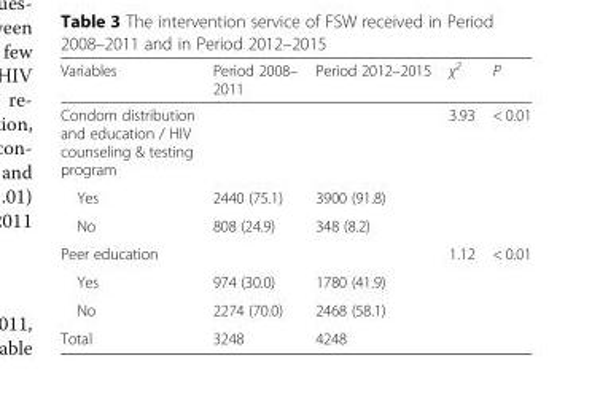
<table><thead><tr><td>Variables</td><td>Period 2008– 2011</td><td>Period 2012–2015</td><td>χ<sup>2</sup></td><td>P</td></tr></thead><tbody><tr><td>Condom distribution and education / HIV counseling &amp; testing program</td><td></td><td></td><td>3.93</td><td>&lt; 0.01</td></tr><tr><td>Yes</td><td>2440 (75.1)</td><td>3900 (91.8)</td><td rowspan="2"></td><td rowspan="2"></td></tr><tr><td>No</td><td>808 (24.9)</td><td>348 (8.2)</td></tr><tr><td>Peer education</td><td></td><td></td><td>1.12</td><td>&lt; 0.01</td></tr><tr><td>Yes</td><td>974 (30.0)</td><td>1780 (41.9)</td><td rowspan="2"></td><td rowspan="2"></td></tr><tr><td>No</td><td>2274 (70.0)</td><td>2468 (58.1)</td></tr><tr><td>Total</td><td>3248</td><td>4248</td><td></td><td></td></tr></tbody></table>